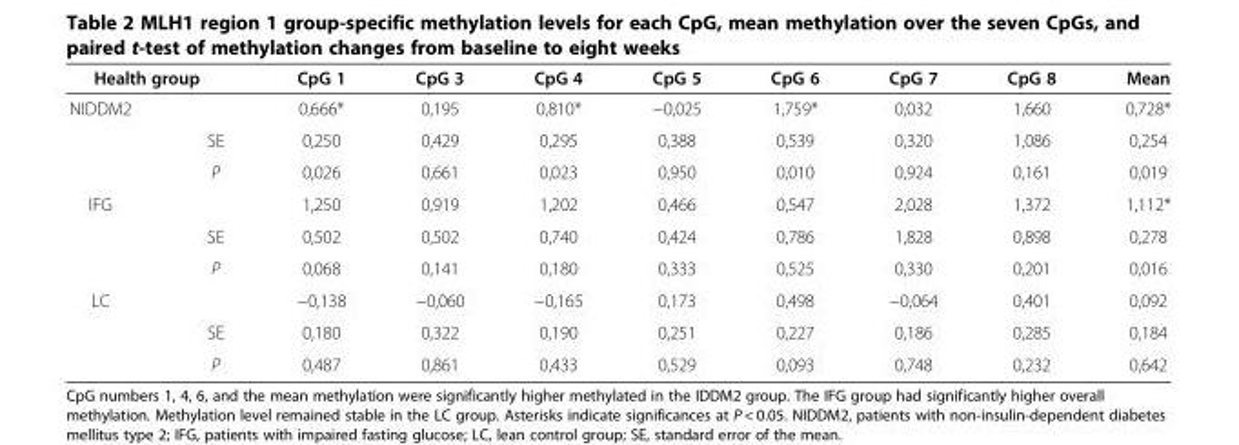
<table><thead><tr><td colspan="2">Health group</td><td rowspan="2">CpG 1 0,666*</td><td rowspan="2">CpG 3 0,195</td><td rowspan="2">CpG 4 0,810*</td><td rowspan="2">CpG 5 −0,025</td><td rowspan="2">CpG 6 1,759*</td><td rowspan="2">CpG 7 0,032</td><td rowspan="2">CpG 8 1,660</td><td rowspan="2">Mean 0,728*</td></tr><tr><td>NIDDM2</td><td></td></tr></thead><tbody><tr><td></td><td>SE</td><td>0,250</td><td>0,429</td><td>0,295</td><td>0,388</td><td>0,539</td><td>0,320</td><td>1,086</td><td>0,254</td></tr><tr><td></td><td>P</td><td>0,026</td><td>0,661</td><td>0,023</td><td>0,950</td><td>0,010</td><td>0,924</td><td>0,161</td><td>0,019</td></tr><tr><td rowspan="3">IFG</td><td></td><td>1,250</td><td>0,919</td><td>1,202</td><td>0,466</td><td>0,547</td><td>2,028</td><td>1,372</td><td>1,112*</td></tr><tr><td>SE</td><td>0,502</td><td>0,502</td><td>0,740</td><td>0,424</td><td>0,786</td><td>1,828</td><td>0,898</td><td>0,278</td></tr><tr><td>P</td><td>0,068</td><td>0,141</td><td>0,180</td><td>0,333</td><td>0,525</td><td>0,330</td><td>0,201</td><td>0,016</td></tr><tr><td rowspan="3">LC</td><td></td><td>−0,138</td><td>−0,060</td><td>−0,165</td><td>0,173</td><td>0,498</td><td>−0,064</td><td>0,401</td><td>0,092</td></tr><tr><td>SE</td><td>0,180</td><td>0,322</td><td>0,190</td><td>0,251</td><td>0,227</td><td>0,186</td><td>0,285</td><td>0,184</td></tr><tr><td>P</td><td>0,487</td><td>0,861</td><td>0,433</td><td>0,529</td><td>0,093</td><td>0,748</td><td>0,232</td><td>0,642</td></tr></tbody></table>